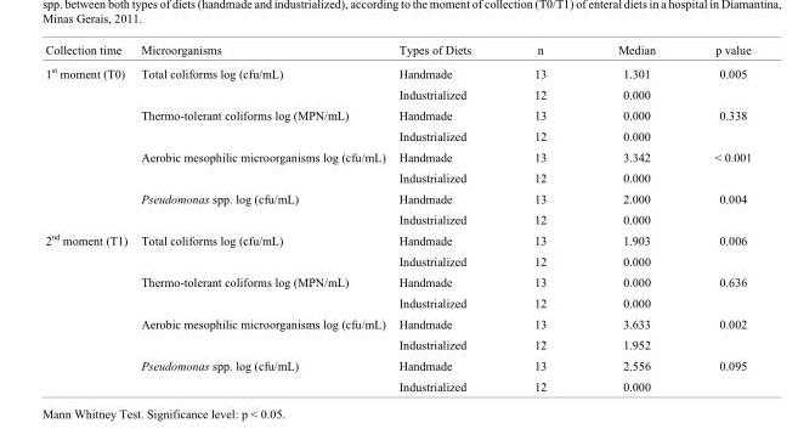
<table><thead><tr><td>Collection time</td><td>Microorganisms</td><td>Types of Diets</td><td>n</td><td>Median</td><td>p value</td></tr></thead><tbody><tr><td rowspan="8">1<sup>st</sup> moment (T0)</td><td rowspan="2">Total coliforms log (cfu/mL)</td><td>Handmade</td><td>13</td><td>1.301</td><td>0.005</td></tr><tr><td>Industrialized</td><td>12</td><td>0.000</td><td></td></tr><tr><td rowspan="2">Thermo-tolerant coliforms log (MPN/mL)</td><td>Handmade</td><td>13</td><td>0.000</td><td>0.338</td></tr><tr><td>Industrialized</td><td>12</td><td>0.000</td><td></td></tr><tr><td rowspan="2">Aerobic mesophilic microorganisms log (cfu/mL)</td><td>Handmade</td><td>13</td><td>3.342</td><td>&lt; 0.001</td></tr><tr><td>Industrialized</td><td>12</td><td>0.000</td><td></td></tr><tr><td rowspan="2">Pseudomonas spp. log (cfu/mL)</td><td>Handmade</td><td>13</td><td>2.000</td><td>0.004</td></tr><tr><td>Industrialized</td><td>12</td><td>0.000</td><td></td></tr><tr><td rowspan="8">2<sup>nd</sup> moment (T1)</td><td rowspan="2">Total coliforms log (cfu/mL)</td><td>Handmade</td><td>13</td><td>1.903</td><td>0.006</td></tr><tr><td>Industrialized</td><td>12</td><td>0.000</td><td></td></tr><tr><td rowspan="2">Thermo-tolerant coliforms log (MPN/mL)</td><td>Handmade</td><td>13</td><td>0.000</td><td>0.636</td></tr><tr><td>Industrialized</td><td>12</td><td>0.000</td><td></td></tr><tr><td rowspan="2">Aerobic mesophilic microorganisms log (cfu/mL)</td><td>Handmade</td><td>13</td><td>3.633</td><td>0.002</td></tr><tr><td>Industrialized</td><td>12</td><td>1.952</td><td></td></tr><tr><td rowspan="2">Pseudomonas spp. log (cfu/mL)</td><td>Handmade</td><td>13</td><td>2.556</td><td>0.095</td></tr><tr><td>Industrialized</td><td>12</td><td>0.000</td><td></td></tr></tbody></table>